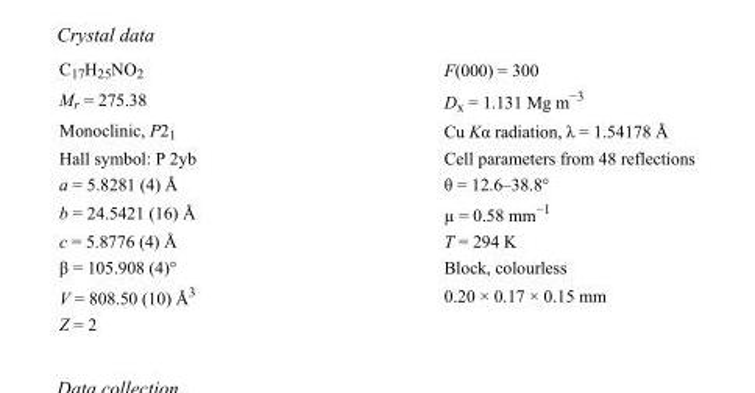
<table><tbody><tr><td>C<sub>17</sub>H<sub>25</sub>NO<sub>2</sub></td><td>F(000) = 300</td></tr><tr><td>M<sub>r</sub> = 275.38</td><td>D<sub>x</sub> = 1.131 Mg m<sup>−3</sup></td></tr><tr><td>Monoclinic, P2<sub>1</sub></td><td>Cu Kα radiation, λ = 1.54178 Å</td></tr><tr><td>Hall symbol: P 2yb</td><td>Cell parameters from 48 reflections</td></tr><tr><td>a = 5.8281 (4) Å</td><td>θ = 12.6–38.8°</td></tr><tr><td>b = 24.5421 (16) Å</td><td>µ = 0.58 mm<sup>−1</sup></td></tr><tr><td>c = 5.8776 (4) Å</td><td>T = 294 K</td></tr><tr><td>β = 105.908 (4)°</td><td>Block, colourless</td></tr><tr><td>V = 808.50 (10) Å<sup>3</sup></td><td>0.20 × 0.17 × 0.15 mm</td></tr><tr><td>Z = 2</td><td></td></tr></tbody></table>